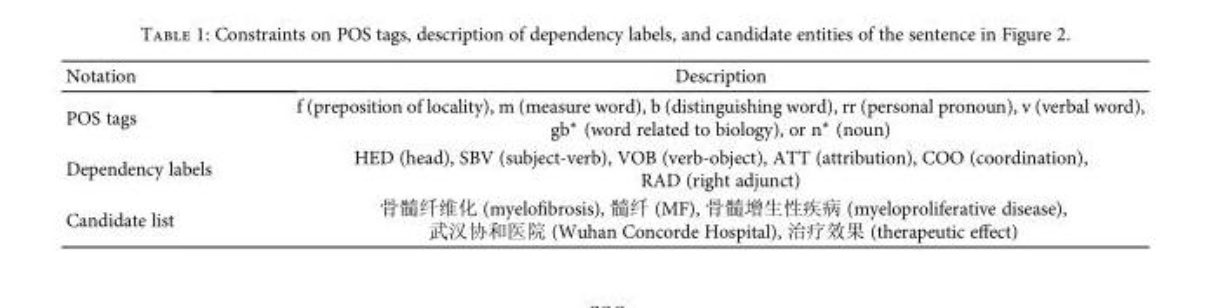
<table><thead><tr><td>Notation</td><td>Description</td></tr></thead><tbody><tr><td>POS tags</td><td>f (preposition of locality), m (measure word), b (distinguishing word), rr (personal pronoun), v (verbal word), gb∗ (word related to biology), or n∗ (noun)</td></tr><tr><td>Dependency labels</td><td>HED (head), SBV (subject-verb), VOB (verb-object), ATT (attribution), COO (coordination), RAD (right adjunct)</td></tr><tr><td>Candidate list</td><td>骨髓纤维化 (myelofibrosis), 髓纤 (MF), 骨髓增生性疾病 (myeloproliferative disease), 武汉协和医院 (Wuhan Concorde Hospital), 治疗效果 (therapeutic effect)</td></tr></tbody></table>